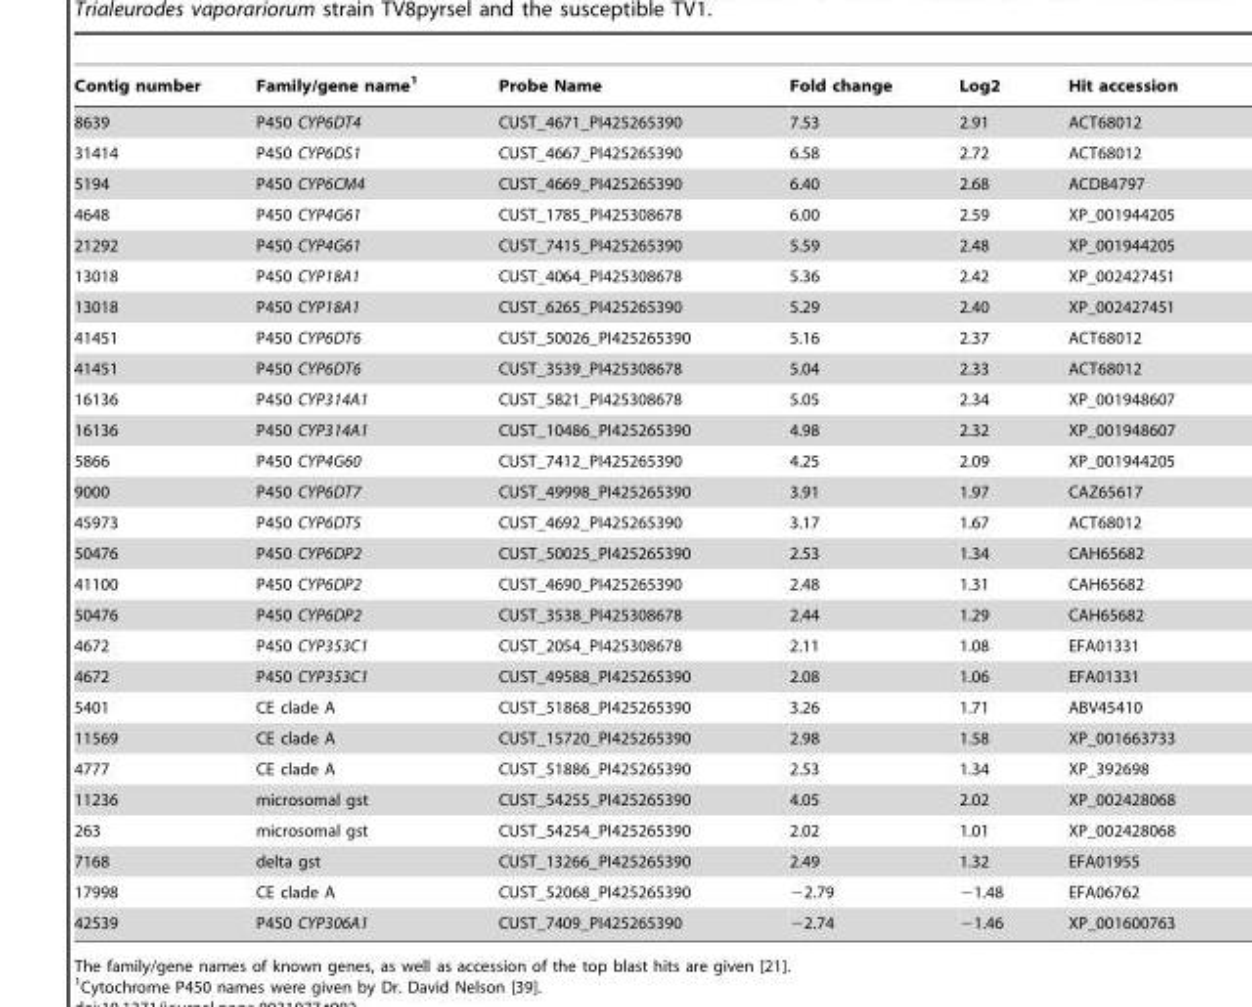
<table><thead><tr><td>Contig number</td><td>Family/gene name<sup>1</sup></td><td>Probe Name</td><td>Fold change</td><td>Log2</td><td>Hit accession</td></tr></thead><tbody><tr><td>8639</td><td>P450 CYP6DT4</td><td>CUST_4671_PI425265390</td><td>7.53</td><td>2.91</td><td>ACT68012</td></tr><tr><td>31414</td><td>P450 CYP6DS1</td><td>CUST_4667_PI425265390</td><td>6.58</td><td>2.72</td><td>ACT68012</td></tr><tr><td>5194</td><td>P450 CYP6CM4</td><td>CUST_4669_PI425265390</td><td>6.40</td><td>2.68</td><td>ACD84797</td></tr><tr><td>4648</td><td>P450 CYP4G61</td><td>CUST_1785_PI425308678</td><td>6.00</td><td>2.59</td><td>XP_001944205</td></tr><tr><td>21292</td><td>P450 CYP4G61</td><td>CUST_7415_PI425265390</td><td>5.59</td><td>2.48</td><td>XP_001944205</td></tr><tr><td>13018</td><td>P450 CYP18A1</td><td>CUST_4064_PI425308678</td><td>5.36</td><td>2.42</td><td>XP_002427451</td></tr><tr><td>13018</td><td>P450 CYP18A1</td><td>CUST_6265_PI425265390</td><td>5.29</td><td>2.40</td><td>XP_002427451</td></tr><tr><td>41451</td><td>P450 CYP6DT6</td><td>CUST_50026_PI425265390</td><td>5.16</td><td>2.37</td><td>ACT68012</td></tr><tr><td>41451</td><td>P450 CYP6DT6</td><td>CUST_3539_PI425308678</td><td>5.04</td><td>2.33</td><td>ACT68012</td></tr><tr><td>16136</td><td>P450 CYP314A1</td><td>CUST_5821_PI425308678</td><td>5.05</td><td>2.34</td><td>XP_001948607</td></tr><tr><td>16136</td><td>P450 CYP314A1</td><td>CUST_10486_PI425265390</td><td>4.98</td><td>2.32</td><td>XP_001948607</td></tr><tr><td>5866</td><td>P450 CYP4G60</td><td>CUST_7412_PI425265390</td><td>4.25</td><td>2.09</td><td>XP_001944205</td></tr><tr><td>9000</td><td>P450 CYP6DT7</td><td>CUST_49998_PI425265390</td><td>3.91</td><td>1.97</td><td>CAZ65617</td></tr><tr><td>45973</td><td>P450 CYP6DT5</td><td>CUST_4692_PI425265390</td><td>3.17</td><td>1.67</td><td>ACT68012</td></tr><tr><td>50476</td><td>P450 CYP6DP2</td><td>CUST_50025_PI425265390</td><td>2.53</td><td>1.34</td><td>CAH65682</td></tr><tr><td>41100</td><td>P450 CYP6DP2</td><td>CUST_4690_PI425265390</td><td>2.48</td><td>1.31</td><td>CAH65682</td></tr><tr><td>50476</td><td>P450 CYP6DP2</td><td>CUST_3538_PI425308678</td><td>2.44</td><td>1.29</td><td>CAH65682</td></tr><tr><td>4672</td><td>P450 CYP353C1</td><td>CUST_2054_PI425308678</td><td>2.11</td><td>1.08</td><td>EFA01331</td></tr><tr><td>4672</td><td>P450 CYP353C1</td><td>CUST_49588_PI425265390</td><td>2.08</td><td>1.06</td><td>EFA01331</td></tr><tr><td>5401</td><td>CE clade A</td><td>CUST_51868_PI425265390</td><td>3.26</td><td>1.71</td><td>ABV45410</td></tr><tr><td>11569</td><td>CE clade A</td><td>CUST_15720_PI425265390</td><td>2.98</td><td>1.58</td><td>XP_001663733</td></tr><tr><td>4777</td><td>CE clade A</td><td>CUST_51886_PI425265390</td><td>2.53</td><td>1.34</td><td>XP_392698</td></tr><tr><td>11236</td><td>microsomal gst</td><td>CUST_54255_PI425265390</td><td>4.05</td><td>2.02</td><td>XP_002428068</td></tr><tr><td>263</td><td>microsomal gst</td><td>CUST_54254_PI425265390</td><td>2.02</td><td>1.01</td><td>XP_002428068</td></tr><tr><td>7168</td><td>delta gst</td><td>CUST_13266_PI425265390</td><td>2.49</td><td>1.32</td><td>EFA01955</td></tr><tr><td>17998</td><td>CE clade A</td><td>CUST_52068_PI425265390</td><td>−2.79</td><td>−1.48</td><td>EFA06762</td></tr><tr><td>42539</td><td>P450 CYP306A1</td><td>CUST_7409_PI425265390</td><td>−2.74</td><td>−1.46</td><td>XP_001600763</td></tr></tbody></table>